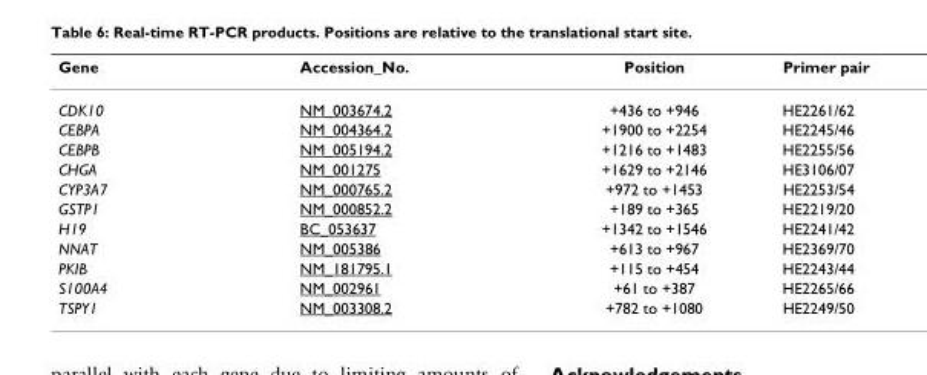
<table><thead><tr><td>Gene</td><td>Accession_No.</td><td>Position</td><td>Primer pair</td></tr></thead><tbody><tr><td>CDK10</td><td>NM_003674.2</td><td>+436 to +946</td><td>HE2261/62</td></tr><tr><td>CEBPA</td><td>NM_004364.2</td><td>+1900 to +2254</td><td>HE2245/46</td></tr><tr><td>CEBPB</td><td>NM_005194.2</td><td>+1216 to +1483</td><td>HE2255/56</td></tr><tr><td>CHGA</td><td>NM_001275</td><td>+1629 to +2146</td><td>HE3106/07</td></tr><tr><td>CYP3A7</td><td>NM_000765.2</td><td>+972 to +1453</td><td>HE2253/54</td></tr><tr><td>GSTP1</td><td>NM_000852.2</td><td>+189 to +365</td><td>HE2219/20</td></tr><tr><td>H19</td><td>BC_053637</td><td>+1342 to +1546</td><td>HE2241/42</td></tr><tr><td>NNAT</td><td>NM_005386</td><td>+613 to +967</td><td>HE2369/70</td></tr><tr><td>PKIB</td><td>NM_181795.1</td><td>+115 to +454</td><td>HE2243/44</td></tr><tr><td>S100A4</td><td>NM_002961</td><td>+61 to +387</td><td>HE2265/66</td></tr><tr><td>TSPY1</td><td>NM_003308.2</td><td>+782 to +1080</td><td>HE2249/50</td></tr></tbody></table>